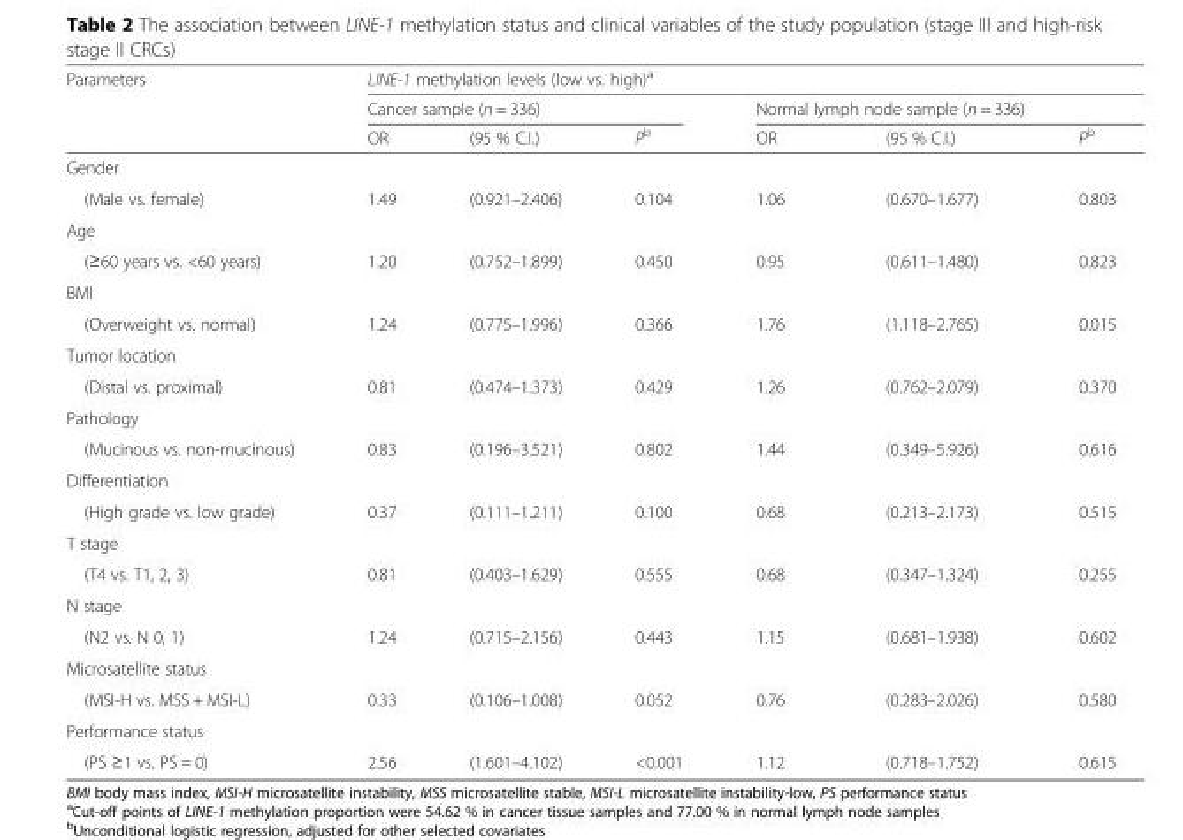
<table><thead><tr><td rowspan="3">Parameters</td><td colspan="6">LINE-1 methylation levels (low vs. high)<sup>a</sup></td></tr><tr><td colspan="3">Cancer sample (n = 336)</td><td colspan="3">Normal lymph node sample (n = 336)</td></tr><tr><td>OR</td><td>(95 % C.I.)</td><td>P<sup>b</sup></td><td>OR</td><td>(95 % C.I.)</td><td>P<sup>b</sup></td></tr></thead><tbody><tr><td colspan="7">Gender</td></tr><tr><td>(Male vs. female)</td><td>1.49</td><td>(0.921–2.406)</td><td>0.104</td><td>1.06</td><td>(0.670–1.677)</td><td>0.803</td></tr><tr><td colspan="7">Age</td></tr><tr><td>(≥60 years vs. &lt;60 years)</td><td>1.20</td><td>(0.752–1.899)</td><td>0.450</td><td>0.95</td><td>(0.611–1.480)</td><td>0.823</td></tr><tr><td colspan="7">BMI</td></tr><tr><td>(Overweight vs. normal)</td><td>1.24</td><td>(0.775–1.996)</td><td>0.366</td><td>1.76</td><td>(1.118–2.765)</td><td>0.015</td></tr><tr><td colspan="7">Tumor location</td></tr><tr><td>(Distal vs. proximal)</td><td>0.81</td><td>(0.474–1.373)</td><td>0.429</td><td>1.26</td><td>(0.762–2.079)</td><td>0.370</td></tr><tr><td colspan="7">Pathology</td></tr><tr><td>(Mucinous vs. non-mucinous)</td><td>0.83</td><td>(0.196–3.521)</td><td>0.802</td><td>1.44</td><td>(0.349–5.926)</td><td>0.616</td></tr><tr><td colspan="7">Differentiation</td></tr><tr><td>(High grade vs. low grade)</td><td>0.37</td><td>(0.111–1.211)</td><td>0.100</td><td>0.68</td><td>(0.213–2.173)</td><td>0.515</td></tr><tr><td colspan="7">T stage</td></tr><tr><td>(T4 vs. T1, 2, 3)</td><td>0.81</td><td>(0.403–1.629)</td><td>0.555</td><td>0.68</td><td>(0.347–1.324)</td><td>0.255</td></tr><tr><td colspan="7">N stage</td></tr><tr><td>(N2 vs. N 0, 1)</td><td>1.24</td><td>(0.715–2.156)</td><td>0.443</td><td>1.15</td><td>(0.681–1.938)</td><td>0.602</td></tr><tr><td colspan="7">Microsatellite status</td></tr><tr><td>(MSI-H vs. MSS + MSI-L)</td><td>0.33</td><td>(0.106–1.008)</td><td>0.052</td><td>0.76</td><td>(0.283–2.026)</td><td>0.580</td></tr><tr><td colspan="7">Performance status</td></tr><tr><td>(PS ≥1 vs. PS = 0)</td><td>2.56</td><td>(1.601–4.102)</td><td>&lt;0.001</td><td>1.12</td><td>(0.718–1.752)</td><td>0.615</td></tr></tbody></table>